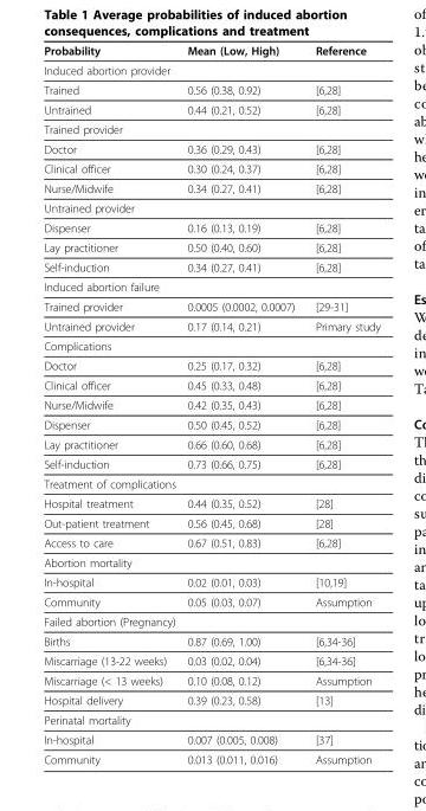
<table><thead><tr><td>Probability</td><td>Mean (Low, High)</td><td>Reference</td></tr></thead><tbody><tr><td colspan="3">Induced abortion provider</td></tr><tr><td>Trained</td><td>0.56 (0.38, 0.92)</td><td>[6,28]</td></tr><tr><td>Untrained</td><td>0.44 (0.21, 0.52)</td><td>[6,28]</td></tr><tr><td colspan="3">Trained provider</td></tr><tr><td>Doctor</td><td>0.36 (0.29, 0.43)</td><td>[6,28]</td></tr><tr><td>Clinical officer</td><td>0.30 (0.24, 0.37)</td><td>[6,28]</td></tr><tr><td>Nurse/Midwife</td><td>0.34 (0.27, 0.41)</td><td>[6,28]</td></tr><tr><td colspan="3">Untrained provider</td></tr><tr><td>Dispenser</td><td>0.16 (0.13, 0.19)</td><td>[6,28]</td></tr><tr><td>Lay practitioner</td><td>0.50 (0.40, 0.60)</td><td>[6,28]</td></tr><tr><td>Self-induction</td><td>0.34 (0.27, 0.41)</td><td>[6,28]</td></tr><tr><td colspan="3">Induced abortion failure</td></tr><tr><td>Trained provider</td><td>0.0005 (0.0002, 0.0007)</td><td>[29-31]</td></tr><tr><td>Untrained provider</td><td>0.17 (0.14, 0.21)</td><td>Primary study</td></tr><tr><td colspan="3">Complications</td></tr><tr><td>Doctor</td><td>0.25 (0.17, 0.32)</td><td>[6,28]</td></tr><tr><td>Clinical officer</td><td>0.45 (0.33, 0.48)</td><td>[6,28]</td></tr><tr><td>Nurse/Midwife</td><td>0.42 (0.35, 0.43)</td><td>[6,28]</td></tr><tr><td>Dispenser</td><td>0.50 (0.45, 0.52)</td><td>[6,28]</td></tr><tr><td>Lay practitioner</td><td>0.66 (0.60, 0.68)</td><td>[6,28]</td></tr><tr><td>Self-induction</td><td>0.73 (0.66, 0.75)</td><td>[6,28]</td></tr><tr><td colspan="3">Treatment of complications</td></tr><tr><td>Hospital treatment</td><td>0.44 (0.35, 0.52)</td><td>[28]</td></tr><tr><td>Out-patient treatment</td><td>0.56 (0.45, 0.68)</td><td>[28]</td></tr><tr><td>Access to care</td><td>0.67 (0.51, 0.83)</td><td>[6,28]</td></tr><tr><td colspan="3">Abortion mortality</td></tr><tr><td>In-hospital</td><td>0.02 (0.01, 0.03)</td><td>[10,19]</td></tr><tr><td>Community</td><td>0.05 (0.03, 0.07)</td><td>Assumption</td></tr><tr><td colspan="3">Failed abortion (Pregnancy)</td></tr><tr><td>Births</td><td>0.87 (0.69, 1.00)</td><td>[6,34-36]</td></tr><tr><td>Miscarriage (13-22 weeks)</td><td>0.03 (0.02, 0.04)</td><td>[6,34-36]</td></tr><tr><td>Miscarriage (&lt; 13 weeks)</td><td>0.10 (0.08, 0.12)</td><td>Assumption</td></tr><tr><td>Hospital delivery</td><td>0.39 (0.23, 0.58)</td><td>[13]</td></tr><tr><td colspan="3">Perinatal mortality</td></tr><tr><td>In-hospital</td><td>0.007 (0.005, 0.008)</td><td>[37]</td></tr><tr><td>Community</td><td>0.013 (0.011, 0.016)</td><td>Assumption</td></tr></tbody></table>